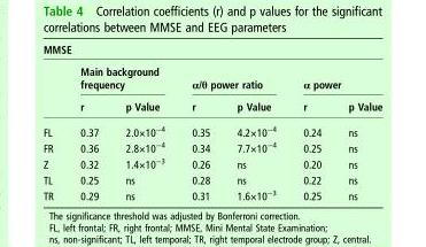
<table><thead><tr><td colspan="7">MMSE</td></tr><tr><td rowspan="2"></td><td colspan="2">Main background frequency</td><td colspan="2">α/θ power ratio</td><td colspan="2">α power</td></tr><tr><td>r</td><td>p Value</td><td>r</td><td>p Value</td><td>r</td><td>p Value</td></tr></thead><tbody><tr><td>FL</td><td>0.37</td><td>2.0×10<sup>−4</sup></td><td>0.35</td><td>4.2×10<sup>−4</sup></td><td>0.24</td><td>ns</td></tr><tr><td>FR</td><td>0.36</td><td>2.8×10<sup>−4</sup></td><td>0.34</td><td>7.7×10<sup>−4</sup></td><td>0.25</td><td>ns</td></tr><tr><td>Z</td><td>0.32</td><td>1.4×10<sup>−3</sup></td><td>0.26</td><td>ns</td><td>0.20</td><td>ns</td></tr><tr><td>TL</td><td>0.25</td><td>ns</td><td>0.28</td><td>ns</td><td>0.22</td><td>ns</td></tr><tr><td>TR</td><td>0.29</td><td>ns</td><td>0.31</td><td>1.6×10<sup>−3</sup></td><td>0.25</td><td>ns</td></tr></tbody></table>